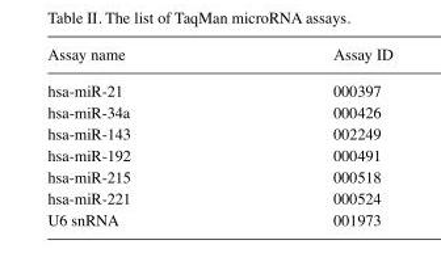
<table><thead><tr><td>Assay name</td><td>Assay ID</td></tr></thead><tbody><tr><td>hsa-miR-21</td><td>000397</td></tr><tr><td>hsa-miR-34a</td><td>000426</td></tr><tr><td>hsa-miR-143</td><td>002249</td></tr><tr><td>hsa-miR-192</td><td>000491</td></tr><tr><td>hsa-miR-215</td><td>000518</td></tr><tr><td>hsa-miR-221</td><td>000524</td></tr><tr><td>U6 snRNA</td><td>001973</td></tr></tbody></table>